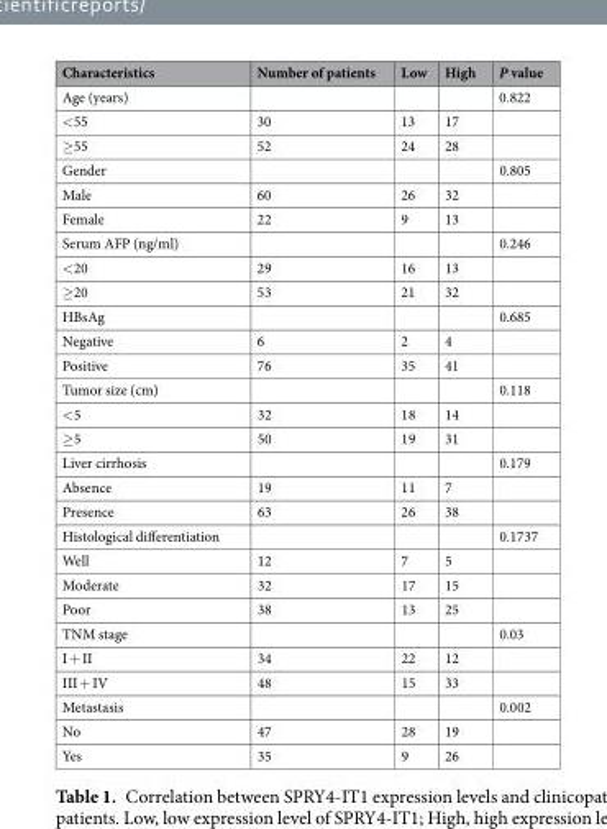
<table><thead><tr><td>Characteristics</td><td>Number of patients</td><td>Low</td><td>High</td><td>P value</td></tr></thead><tbody><tr><td>Age (years)</td><td></td><td></td><td></td><td>0.822</td></tr><tr><td>&lt;55</td><td>30</td><td>13</td><td>17</td><td></td></tr><tr><td>≥55</td><td>52</td><td>24</td><td>28</td><td></td></tr><tr><td>Gender</td><td></td><td></td><td></td><td>0.805</td></tr><tr><td>Male</td><td>60</td><td>26</td><td>32</td><td></td></tr><tr><td>Female</td><td>22</td><td>9</td><td>13</td><td></td></tr><tr><td>Serum AFP (ng/ml)</td><td></td><td></td><td></td><td>0.246</td></tr><tr><td>&lt;20</td><td>29</td><td>16</td><td>13</td><td></td></tr><tr><td>≥20</td><td>53</td><td>21</td><td>32</td><td></td></tr><tr><td>HBsAg</td><td></td><td></td><td></td><td>0.685</td></tr><tr><td>Negative</td><td>6</td><td>2</td><td>4</td><td></td></tr><tr><td>Positive</td><td>76</td><td>35</td><td>41</td><td></td></tr><tr><td>Tumor size (cm)</td><td></td><td></td><td></td><td>0.118</td></tr><tr><td>&lt;5</td><td>32</td><td>18</td><td>14</td><td></td></tr><tr><td>≥5</td><td>50</td><td>19</td><td>31</td><td></td></tr><tr><td>Liver cirrhosis</td><td></td><td></td><td></td><td>0.179</td></tr><tr><td>Absence</td><td>19</td><td>11</td><td>7</td><td></td></tr><tr><td>Presence</td><td>63</td><td>26</td><td>38</td><td></td></tr><tr><td>Histological differentiation</td><td></td><td></td><td></td><td>0.1737</td></tr><tr><td>Well</td><td>12</td><td>7</td><td>5</td><td></td></tr><tr><td>Moderate</td><td>32</td><td>17</td><td>15</td><td></td></tr><tr><td>Poor</td><td>38</td><td>13</td><td>25</td><td></td></tr><tr><td>TNM stage</td><td></td><td></td><td></td><td>0.03</td></tr><tr><td>I + II</td><td>34</td><td>22</td><td>12</td><td></td></tr><tr><td>III + IV</td><td>48</td><td>15</td><td>33</td><td></td></tr><tr><td>Metastasis</td><td></td><td></td><td></td><td>0.002</td></tr><tr><td>No</td><td>47</td><td>28</td><td>19</td><td></td></tr><tr><td>Yes</td><td>35</td><td>9</td><td>26</td><td></td></tr></tbody></table>